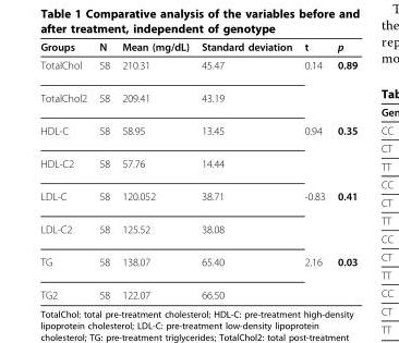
<table><thead><tr><td>Groups</td><td>N</td><td>Mean (mg/dL)</td><td>Standard deviation</td><td>t</td><td>p</td></tr></thead><tbody><tr><td>TotalChol</td><td>58</td><td>210.31</td><td>45.47</td><td>0.14</td><td>0.89</td></tr><tr><td>TotalChol2</td><td>58</td><td>209.41</td><td>43.19</td><td></td><td></td></tr><tr><td>HDL-C</td><td>58</td><td>58.95</td><td>13.45</td><td>0.94</td><td>0.35</td></tr><tr><td>HDL-C2</td><td>58</td><td>57.76</td><td>14.44</td><td></td><td></td></tr><tr><td>LDL-C</td><td>58</td><td>120.052</td><td>38.71</td><td>-0.83</td><td>0.41</td></tr><tr><td>LDL-C2</td><td>58</td><td>125.52</td><td>38.08</td><td></td><td></td></tr><tr><td>TG</td><td>58</td><td>138.07</td><td>65.40</td><td>2.16</td><td>0.03</td></tr><tr><td>TG2</td><td>58</td><td>122.07</td><td>66.50</td><td></td><td></td></tr></tbody></table>